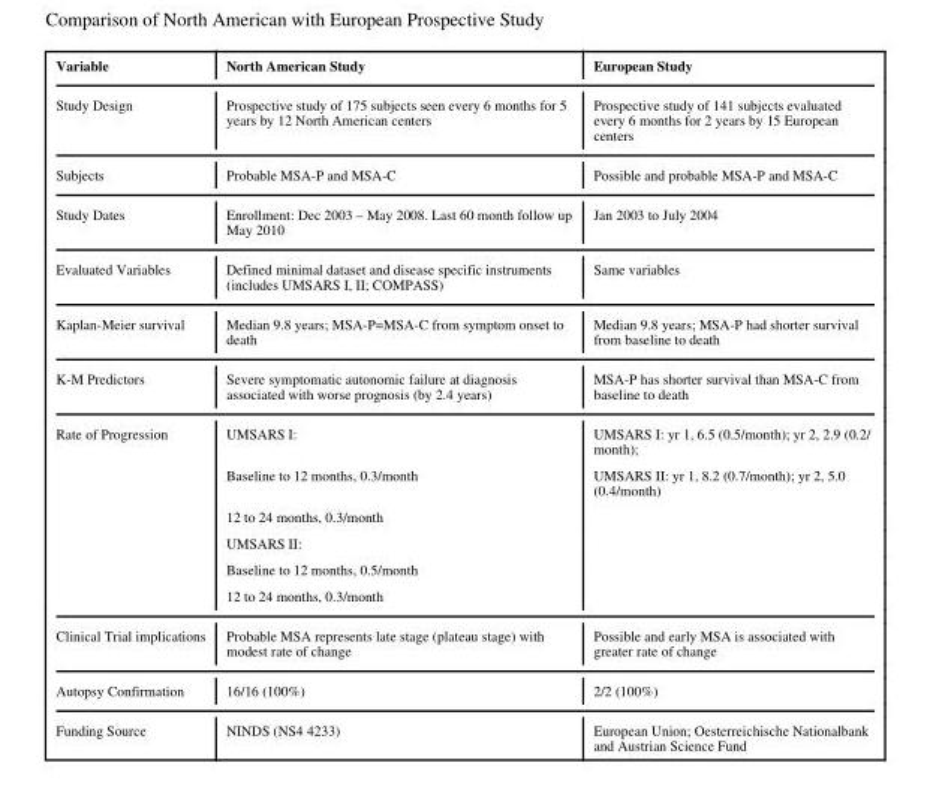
<table><thead><tr><td>Variable</td><td>North American Study</td><td>European Study</td></tr></thead><tbody><tr><td>Study Design</td><td>Prospective study of 175 subjects seen every 6 months for 5 years by 12 North American centers</td><td>Prospective study of 141 subjects evaluated every 6 months for 2 years by 15 European centers</td></tr><tr><td>Subjects</td><td>Probable MSA-P and MSA-C</td><td>Possible and probable MSA-P and MSA-C</td></tr><tr><td>Study Dates</td><td>Enrollment: Dec 2003 – May 2008. Last 60 month follow up May 2010</td><td>Jan 2003 to July 2004</td></tr><tr><td>Evaluated Variables</td><td>Defined minimal dataset and disease specific instruments (includes UMSARS I, II; COMPASS)</td><td>Same variables</td></tr><tr><td>Kaplan-Meier survival</td><td>Median 9.8 years; MSA-P=MSA-C from symptom onset to death</td><td>Median 9.8 years; MSA-P had shorter survival from baseline to death</td></tr><tr><td>K-M Predictors</td><td>Severe symptomatic autonomic failure at diagnosis associated with worse prognosis (by 2.4 years)</td><td>MSA-P has shorter survival than MSA-C from baseline to death</td></tr><tr><td rowspan="6">Rate of Progression</td><td>UMSARS I:</td><td>UMSARS I: yr 1, 6.5 (0.5/month); yr 2, 2.9 (0.2/ month);</td></tr><tr><td>Baseline to 12 months, 0.3/month</td><td>UMSARS II: yr 1, 8.2 (0.7/month); yr 2, 5.0 (0.4/month)</td></tr><tr><td>12 to 24 months, 0.3/month</td><td></td></tr><tr><td>UMSARS II:</td><td></td></tr><tr><td>Baseline to 12 months, 0.5/month</td><td></td></tr><tr><td>12 to 24 months, 0.3/month</td><td></td></tr><tr><td>Clinical Trial implications</td><td>Probable MSA represents late stage (plateau stage) with modest rate of change</td><td>Possible and early MSA is associated with greater rate of change</td></tr><tr><td>Autopsy Confirmation</td><td>16/16 (100%)</td><td>2/2 (100%)</td></tr><tr><td>Funding Source</td><td>NINDS (NS4 4233)</td><td>European Union; Oesterreichische Nationalbank and Austrian Science Fund</td></tr></tbody></table>